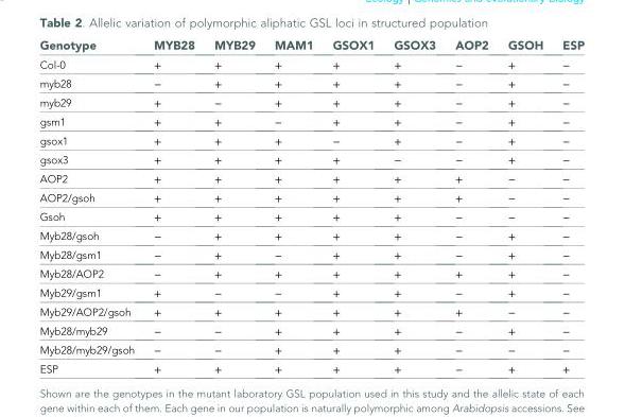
<table><thead><tr><td>Genotype</td><td>MYB28</td><td>MYB29</td><td>MAM1</td><td>GSOX1</td><td>GSOX3</td><td>AOP2</td><td>GSOH</td><td>ESP</td></tr></thead><tbody><tr><td>Col-0</td><td>+</td><td>+</td><td>+</td><td>+</td><td>+</td><td>−</td><td>+</td><td>−</td></tr><tr><td>myb28</td><td>−</td><td>+</td><td>+</td><td>+</td><td>+</td><td>−</td><td>+</td><td>−</td></tr><tr><td>myb29</td><td>+</td><td>−</td><td>+</td><td>+</td><td>+</td><td>−</td><td>+</td><td>−</td></tr><tr><td>gsm1</td><td>+</td><td>+</td><td>−</td><td>+</td><td>+</td><td>−</td><td>+</td><td>−</td></tr><tr><td>gsox1</td><td>+</td><td>+</td><td>+</td><td>−</td><td>+</td><td>−</td><td>+</td><td>−</td></tr><tr><td>gsox3</td><td>+</td><td>+</td><td>+</td><td>+</td><td>−</td><td>−</td><td>+</td><td>−</td></tr><tr><td>AOP2</td><td>+</td><td>+</td><td>+</td><td>+</td><td>+</td><td>+</td><td>−</td><td>−</td></tr><tr><td>AOP2/gsoh</td><td>+</td><td>+</td><td>+</td><td>+</td><td>+</td><td>+</td><td>−</td><td>−</td></tr><tr><td>Gsoh</td><td>+</td><td>+</td><td>+</td><td>+</td><td>+</td><td>−</td><td>−</td><td>−</td></tr><tr><td>Myb28/gsoh</td><td>−</td><td>+</td><td>+</td><td>+</td><td>+</td><td>−</td><td>+</td><td>−</td></tr><tr><td>Myb28/gsm1</td><td>−</td><td>+</td><td>−</td><td>+</td><td>+</td><td>−</td><td>+</td><td>−</td></tr><tr><td>Myb28/AOP2</td><td>−</td><td>+</td><td>+</td><td>+</td><td>+</td><td>+</td><td>+</td><td>−</td></tr><tr><td>Myb29/gsm1</td><td>+</td><td>−</td><td>−</td><td>+</td><td>+</td><td>−</td><td>+</td><td>−</td></tr><tr><td>Myb29/AOP2/gsoh</td><td>+</td><td>+</td><td>+</td><td>+</td><td>+</td><td>+</td><td>−</td><td>−</td></tr><tr><td>Myb28/myb29</td><td>−</td><td>−</td><td>+</td><td>+</td><td>+</td><td>−</td><td>+</td><td>−</td></tr><tr><td>Myb28/myb29/gsoh</td><td>−</td><td>−</td><td>+</td><td>+</td><td>+</td><td>−</td><td>−</td><td>−</td></tr><tr><td>ESP</td><td>+</td><td>+</td><td>+</td><td>+</td><td>+</td><td>−</td><td>+</td><td>+</td></tr></tbody></table>